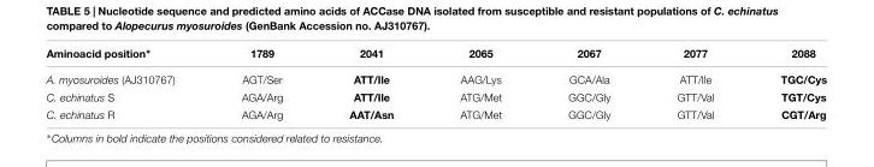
<table><thead><tr><td>Aminoacid position∗</td><td>1789</td><td>2041</td><td>2065</td><td>2067</td><td>2077</td><td>2088</td></tr></thead><tbody><tr><td>A. myosuroides (AJ310767)</td><td>AGT/Ser</td><td>ATT/Ile</td><td>AAG/Lys</td><td>GCA/Ala</td><td>ATT/Ile</td><td>TGC/Cys</td></tr><tr><td>C. echinatus S</td><td>AGA/Arg</td><td>ATT/Ile</td><td>ATG/Met</td><td>GGC/Gly</td><td>GTT/Val</td><td>TGT/Cys</td></tr><tr><td>C. echinatus R</td><td>AGA/Arg</td><td>AAT/Asn</td><td>ATG/Met</td><td>GGC/Gly</td><td>GTT/Val</td><td>CGT/Arg</td></tr></tbody></table>